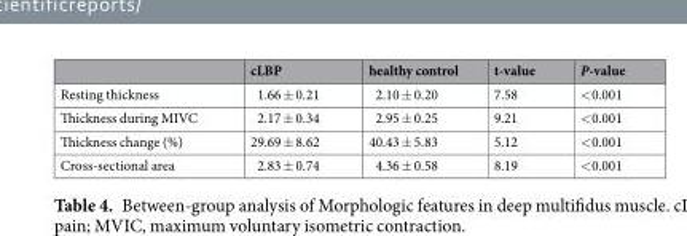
<table><thead><tr><td></td><td>cLBP</td><td>healthy control</td><td>t-value</td><td>P-value</td></tr></thead><tbody><tr><td>Resting thickness</td><td>1.66 ± 0.21</td><td>2.10 ± 0.20</td><td>7.58</td><td>&lt;0.001</td></tr><tr><td>Thickness during MIVC</td><td>2.17 ± 0.34</td><td>2.95 ± 0.25</td><td>9.21</td><td>&lt;0.001</td></tr><tr><td>Thickness change (%)</td><td>29.69 ± 8.62</td><td>40.43 ± 5.83</td><td>5.12</td><td>&lt;0.001</td></tr><tr><td>Cross-sectional area</td><td>2.83 ± 0.74</td><td>4.36 ± 0.58</td><td>8.19</td><td>&lt;0.001</td></tr></tbody></table>